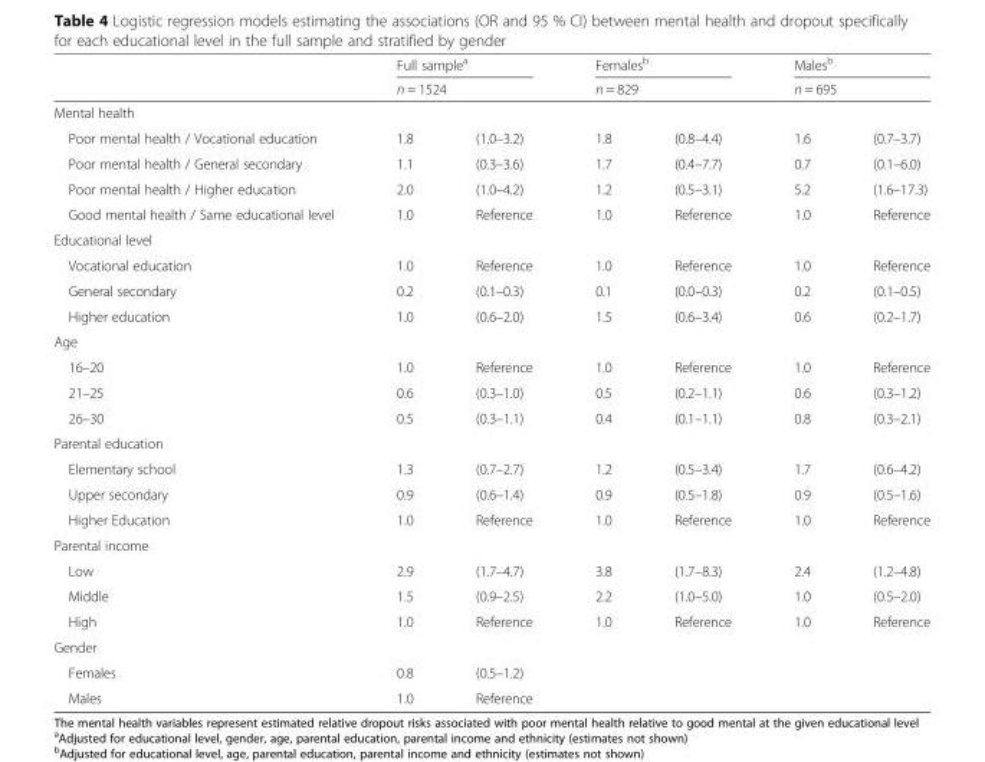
<table><thead><tr><td rowspan="2"></td><td rowspan="2" colspan="2">Full sample<sup>a</sup> n = 1524</td><td rowspan="2" colspan="2">Females<sup>b</sup> n = 829</td><td rowspan="2" colspan="2">Males<sup>b</sup> n = 695</td></tr><tr></tr><tr><td colspan="7">Mental health</td></tr><tr><td>Poor mental health / Vocational education</td><td>1.8</td><td>(1.0–3.2)</td><td>1.8</td><td>(0.8–4.4)</td><td>1.6</td><td>(0.7–3.7)</td></tr></thead><tbody><tr><td>Poor mental health / General secondary</td><td>1.1</td><td>(0.3–3.6)</td><td>1.7</td><td>(0.4–7.7)</td><td>0.7</td><td>(0.1–6.0)</td></tr><tr><td>Poor mental health / Higher education</td><td>2.0</td><td>(1.0–4.2)</td><td>1.2</td><td>(0.5–3.1)</td><td>5.2</td><td>(1.6–17.3)</td></tr><tr><td>Good mental health / Same educational level</td><td>1.0</td><td>Reference</td><td>1.0</td><td>Reference</td><td>1.0</td><td>Reference</td></tr><tr><td colspan="7">Educational level</td></tr><tr><td>Vocational education</td><td>1.0</td><td>Reference</td><td>1.0</td><td>Reference</td><td>1.0</td><td>Reference</td></tr><tr><td>General secondary</td><td>0.2</td><td>(0.1–0.3)</td><td>0.1</td><td>(0.0–0.3)</td><td>0.2</td><td>(0.1–0.5)</td></tr><tr><td>Higher education</td><td>1.0</td><td>(0.6–2.0)</td><td>1.5</td><td>(0.6–3.4)</td><td>0.6</td><td>(0.2–1.7)</td></tr><tr><td colspan="7">Age</td></tr><tr><td>16–20</td><td>1.0</td><td>Reference</td><td>1.0</td><td>Reference</td><td>1.0</td><td>Reference</td></tr><tr><td>21–25</td><td>0.6</td><td>(0.3–1.0)</td><td>0.5</td><td>(0.2–1.1)</td><td>0.6</td><td>(0.3–1.2)</td></tr><tr><td>26–30</td><td>0.5</td><td>(0.3–1.1)</td><td>0.4</td><td>(0.1–1.1)</td><td>0.8</td><td>(0.3–2.1)</td></tr><tr><td colspan="7">Parental education</td></tr><tr><td>Elementary school</td><td>1.3</td><td>(0.7–2.7)</td><td>1.2</td><td>(0.5–3.4)</td><td>1.7</td><td>(0.6–4.2)</td></tr><tr><td>Upper secondary</td><td>0.9</td><td>(0.6–1.4)</td><td>0.9</td><td>(0.5–1.8)</td><td>0.9</td><td>(0.5–1.6)</td></tr><tr><td>Higher Education</td><td>1.0</td><td>Reference</td><td>1.0</td><td>Reference</td><td>1.0</td><td>Reference</td></tr><tr><td colspan="7">Parental income</td></tr><tr><td>Low</td><td>2.9</td><td>(1.7–4.7)</td><td>3.8</td><td>(1.7–8.3)</td><td>2.4</td><td>(1.2–4.8)</td></tr><tr><td>Middle</td><td>1.5</td><td>(0.9–2.5)</td><td>2.2</td><td>(1.0–5.0)</td><td>1.0</td><td>(0.5–2.0)</td></tr><tr><td>High</td><td>1.0</td><td>Reference</td><td>1.0</td><td>Reference</td><td>1.0</td><td>Reference</td></tr><tr><td colspan="7">Gender</td></tr><tr><td>Females</td><td>0.8</td><td>(0.5–1.2)</td><td></td><td></td><td></td><td></td></tr><tr><td>Males</td><td>1.0</td><td>Reference</td><td></td><td></td><td></td><td></td></tr></tbody></table>